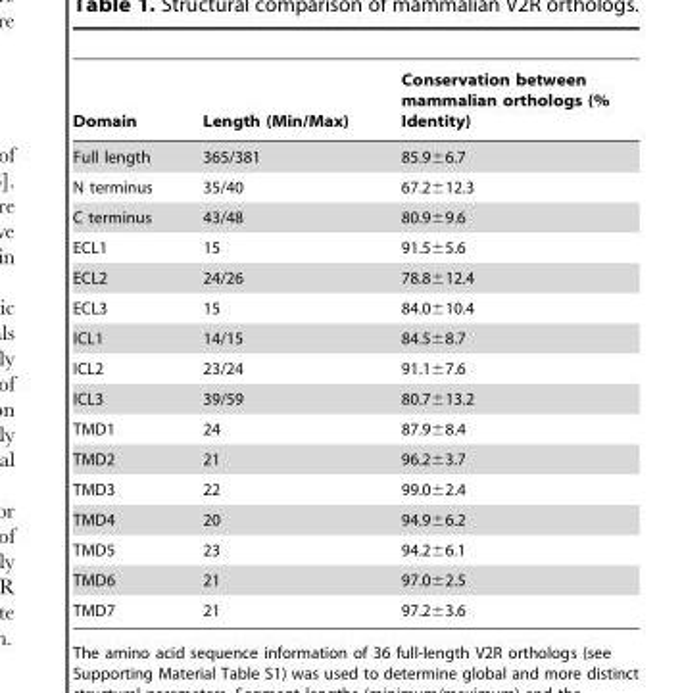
<table><thead><tr><td>Domain</td><td>Length (Min/Max)</td><td>Conservation between mammalian orthologs (% Identity)</td></tr></thead><tbody><tr><td>Full length</td><td>365/381</td><td>85.9±6.7</td></tr><tr><td>N terminus</td><td>35/40</td><td>67.2±12.3</td></tr><tr><td>C terminus</td><td>43/48</td><td>80.9±9.6</td></tr><tr><td>ECL1</td><td>15</td><td>91.5±5.6</td></tr><tr><td>ECL2</td><td>24/26</td><td>78.8±12.4</td></tr><tr><td>ECL3</td><td>15</td><td>84.0±10.4</td></tr><tr><td>ICL1</td><td>14/15</td><td>84.5±8.7</td></tr><tr><td>ICL2</td><td>23/24</td><td>91.1±7.6</td></tr><tr><td>ICL3</td><td>39/59</td><td>80.7±13.2</td></tr><tr><td>TMD1</td><td>24</td><td>87.9±8.4</td></tr><tr><td>TMD2</td><td>21</td><td>96.2±3.7</td></tr><tr><td>TMD3</td><td>22</td><td>99.0±2.4</td></tr><tr><td>TMD4</td><td>20</td><td>94.9±6.2</td></tr><tr><td>TMD5</td><td>23</td><td>94.2±6.1</td></tr><tr><td>TMD6</td><td>21</td><td>97.0±2.5</td></tr><tr><td>TMD7</td><td>21</td><td>97.2±3.6</td></tr></tbody></table>